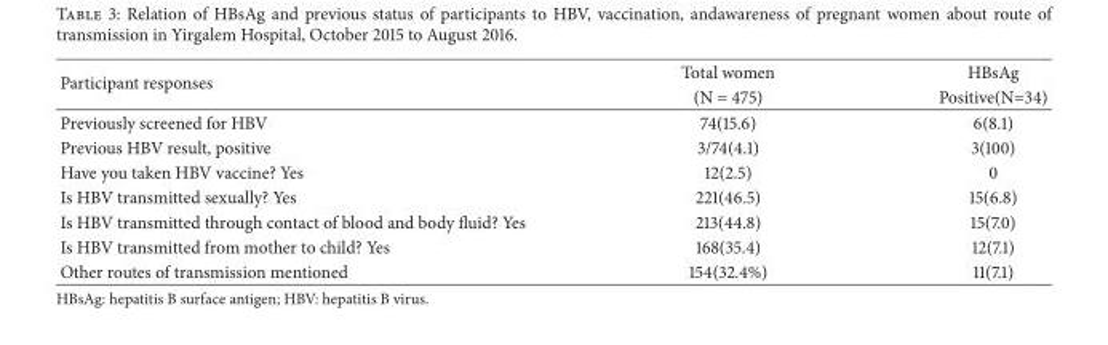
<table><thead><tr><td rowspan="2">Participant responses</td><td rowspan="2">Total women (N = 475)</td><td rowspan="2">HBsAg Positive(N=34)</td></tr><tr></tr></thead><tbody><tr><td>Previously screened for HBV</td><td>74(15.6)</td><td>6(8.1)</td></tr><tr><td>Previous HBV result, positive</td><td>3/74(4.1)</td><td>3(100)</td></tr><tr><td>Have you taken HBV vaccine? Yes</td><td>12(2.5)</td><td>0</td></tr><tr><td>Is HBV transmitted sexually? Yes</td><td>221(46.5)</td><td>15(6.8)</td></tr><tr><td>Is HBV transmitted through contact of blood and body fluid? Yes</td><td>213(44.8)</td><td>15(7.0)</td></tr><tr><td>Is HBV transmitted from mother to child? Yes</td><td>168(35.4)</td><td>12(7.1)</td></tr><tr><td>Other routes of transmission mentioned</td><td>154(32.4%)</td><td>11(7.1)</td></tr></tbody></table>